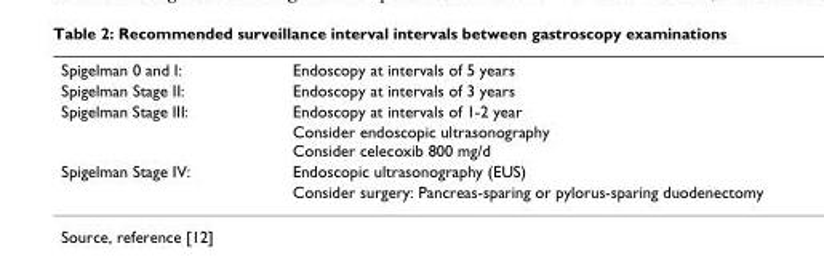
<table><tbody><tr><td>Spigelman 0 and I:</td><td>Endoscopy at intervals of 5 years</td></tr><tr><td>Spigelman Stage II:</td><td>Endoscopy at intervals of 3 years</td></tr><tr><td rowspan="2">Spigelman Stage III:</td><td>Endoscopy at intervals of 1-2 year</td></tr><tr><td>Consider endoscopic ultrasonography Consider celecoxib 800 mg/d</td></tr><tr><td rowspan="2">Spigelman Stage IV:</td><td>Endoscopic ultrasonography (EUS)</td></tr><tr><td>Consider surgery: Pancreas-sparing or pylorus-sparing duodenectomy</td></tr></tbody></table>